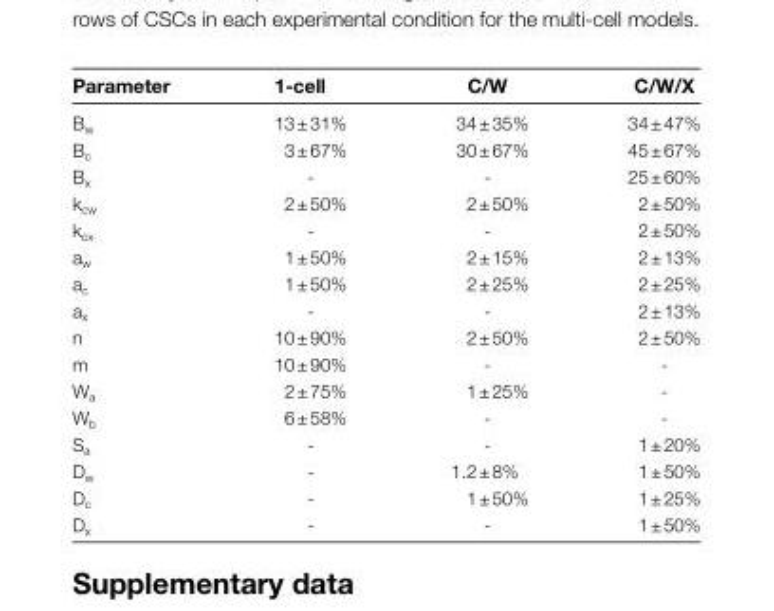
<table><thead><tr><td>Parameter</td><td>1-cell</td><td>C/W</td><td>C/W/X</td></tr></thead><tbody><tr><td>B<sub>w</sub></td><td>13 ± 31%</td><td>34 ± 35%</td><td>34 ± 47%</td></tr><tr><td>B<sub>c</sub></td><td>3 ± 67%</td><td>30 ± 67%</td><td>45 ± 67%</td></tr><tr><td>B<sub>x</sub></td><td>-</td><td>-</td><td>25 ± 60%</td></tr><tr><td>k<sub>cw</sub></td><td>2 ± 50%</td><td>2 ± 50%</td><td>2 ± 50%</td></tr><tr><td>k<sub>cx</sub></td><td>-</td><td>-</td><td>2 ± 50%</td></tr><tr><td>a<sub>w</sub></td><td>1 ± 50%</td><td>2 ± 15%</td><td>2 ± 13%</td></tr><tr><td>a<sub>c</sub></td><td>1 ± 50%</td><td>2 ± 25%</td><td>2 ± 25%</td></tr><tr><td>a<sub>x</sub></td><td>-</td><td>-</td><td>2 ± 13%</td></tr><tr><td>n</td><td>10 ± 90%</td><td>2 ± 50%</td><td>2 ± 50%</td></tr><tr><td>m</td><td>10 ± 90%</td><td>-</td><td>-</td></tr><tr><td>W<sub>a</sub></td><td>2 ± 75%</td><td>1 ± 25%</td><td>-</td></tr><tr><td>W<sub>b</sub></td><td>6 ± 58%</td><td>-</td><td>-</td></tr><tr><td>S<sub>a</sub></td><td>-</td><td>-</td><td>1 ± 20%</td></tr><tr><td>D<sub>w</sub></td><td>-</td><td>1.2 ± 8%</td><td>1 ± 50%</td></tr><tr><td>D<sub>c</sub></td><td>-</td><td>1 ± 50%</td><td>1 ± 25%</td></tr><tr><td>D<sub>x</sub></td><td>-</td><td>-</td><td>1 ± 50%</td></tr></tbody></table>